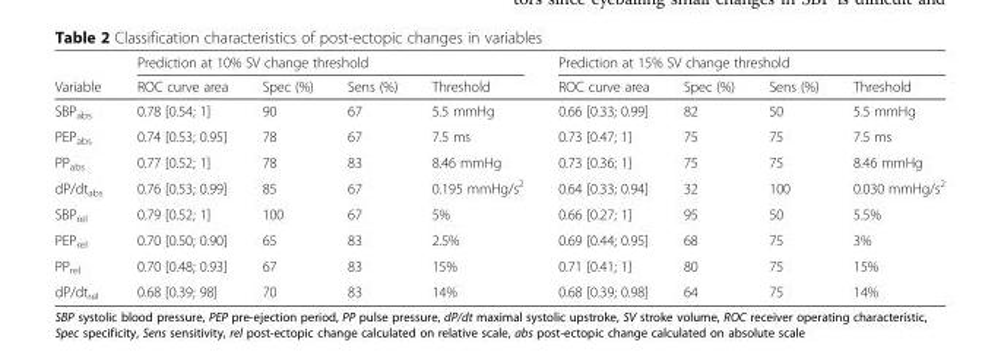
<table><thead><tr><td rowspan="2">Variable</td><td colspan="4">Prediction at 10% SV change threshold</td><td colspan="4">Prediction at 15% SV change threshold</td></tr><tr><td>ROC curve area</td><td>Spec (%)</td><td>Sens (%)</td><td>Threshold</td><td>ROC curve area</td><td>Spec (%)</td><td>Sens (%)</td><td>Threshold</td></tr></thead><tbody><tr><td>SBP<sub>abs</sub></td><td>0.78 [0.54; 1]</td><td>90</td><td>67</td><td>5.5 mmHg</td><td>0.66 [0.33; 0.99]</td><td>82</td><td>50</td><td>5.5 mmHg</td></tr><tr><td>PEP<sub>abs</sub></td><td>0.74 [0.53; 0.95]</td><td>78</td><td>67</td><td>7.5 ms</td><td>0.73 [0.47; 1]</td><td>75</td><td>75</td><td>7.5 ms</td></tr><tr><td>PP<sub>abs</sub></td><td>0.77 [0.52; 1]</td><td>78</td><td>83</td><td>8.46 mmHg</td><td>0.73 [0.36; 1]</td><td>75</td><td>75</td><td>8.46 mmHg</td></tr><tr><td>dP/dt<sub>abs</sub></td><td>0.76 [0.53; 0.99]</td><td>85</td><td>67</td><td>0.195 mmHg/s<sup>2</sup></td><td>0.64 [0.33; 0.94]</td><td>32</td><td>100</td><td>0.030 mmHg/s<sup>2</sup></td></tr><tr><td>SBP<sub>rel</sub></td><td>0.79 [0.52; 1]</td><td>100</td><td>67</td><td>5%</td><td>0.66 [0.27; 1]</td><td>95</td><td>50</td><td>5.5%</td></tr><tr><td>PEP<sub>rel</sub></td><td>0.70 [0.50; 0.90]</td><td>65</td><td>83</td><td>2.5%</td><td>0.69 [0.44; 0.95]</td><td>68</td><td>75</td><td>3%</td></tr><tr><td>PP<sub>rel</sub></td><td>0.70 [0.48; 0.93]</td><td>67</td><td>83</td><td>15%</td><td>0.71 [0.41; 1]</td><td>80</td><td>75</td><td>15%</td></tr><tr><td>dP/dt<sub>rel</sub></td><td>0.68 [0.39; 98]</td><td>70</td><td>83</td><td>14%</td><td>0.68 [0.39; 0.98]</td><td>64</td><td>75</td><td>14%</td></tr></tbody></table>